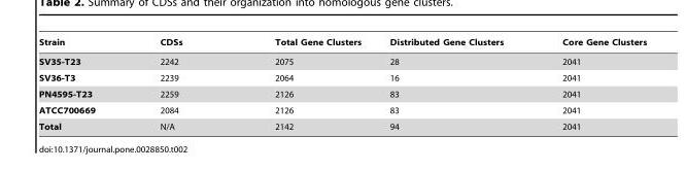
<table><thead><tr><td>Strain</td><td>CDSs</td><td>Total Gene Clusters</td><td>Distributed Gene Clusters</td><td>Core Gene Clusters</td></tr></thead><tbody><tr><td>SV35-T23</td><td>2242</td><td>2075</td><td>28</td><td>2041</td></tr><tr><td>SV36-T3</td><td>2239</td><td>2064</td><td>16</td><td>2041</td></tr><tr><td>PN4595-T23</td><td>2259</td><td>2126</td><td>83</td><td>2041</td></tr><tr><td>ATCC700669</td><td>2084</td><td>2126</td><td>83</td><td>2041</td></tr><tr><td>Total</td><td>N/A</td><td>2142</td><td>94</td><td>2041</td></tr></tbody></table>